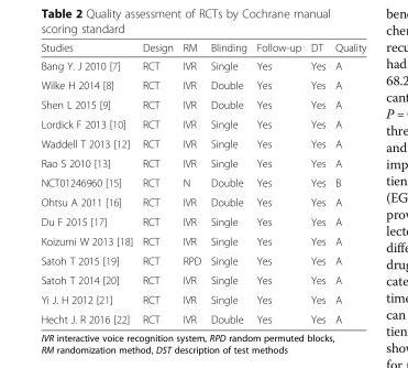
<table><thead><tr><td>Studies</td><td>Design</td><td>RM</td><td>Blinding</td><td>Follow-up</td><td>DT</td><td>Quality</td></tr></thead><tbody><tr><td>Bang Y. J 2010 [7]</td><td>RCT</td><td>IVR</td><td>Single</td><td>Yes</td><td>Yes</td><td>A</td></tr><tr><td>Wilke H 2014 [8]</td><td>RCT</td><td>IVR</td><td>Double</td><td>Yes</td><td>Yes</td><td>A</td></tr><tr><td>Shen L 2015 [9]</td><td>RCT</td><td>IVR</td><td>Double</td><td>Yes</td><td>Yes</td><td>A</td></tr><tr><td>Lordick F 2013 [10]</td><td>RCT</td><td>IVR</td><td>Single</td><td>Yes</td><td>Yes</td><td>A</td></tr><tr><td>Waddell T 2013 [12]</td><td>RCT</td><td>IVR</td><td>Single</td><td>Yes</td><td>Yes</td><td>A</td></tr><tr><td>Rao S 2010 [13]</td><td>RCT</td><td>IVR</td><td>Single</td><td>Yes</td><td>Yes</td><td>A</td></tr><tr><td>NCT01246960 [15]</td><td>RCT</td><td>N</td><td>Double</td><td>Yes</td><td>Yes</td><td>B</td></tr><tr><td>Ohtsu A 2011 [16]</td><td>RCT</td><td>IVR</td><td>Double</td><td>Yes</td><td>Yes</td><td>A</td></tr><tr><td>Du F 2015 [17]</td><td>RCT</td><td>IVR</td><td>Single</td><td>Yes</td><td>Yes</td><td>A</td></tr><tr><td>Koizumi W 2013 [18]</td><td>RCT</td><td>IVR</td><td>Single</td><td>Yes</td><td>Yes</td><td>A</td></tr><tr><td>Satoh T 2015 [19]</td><td>RCT</td><td>RPD</td><td>Single</td><td>Yes</td><td>Yes</td><td>A</td></tr><tr><td>Satoh T 2014 [20]</td><td>RCT</td><td>IVR</td><td>Single</td><td>Yes</td><td>Yes</td><td>A</td></tr><tr><td>Yi J. H 2012 [21]</td><td>RCT</td><td>IVR</td><td>Single</td><td>Yes</td><td>Yes</td><td>A</td></tr><tr><td>Hecht J. R 2016 [22]</td><td>RCT</td><td>IVR</td><td>Double</td><td>Yes</td><td>Yes</td><td>A</td></tr></tbody></table>